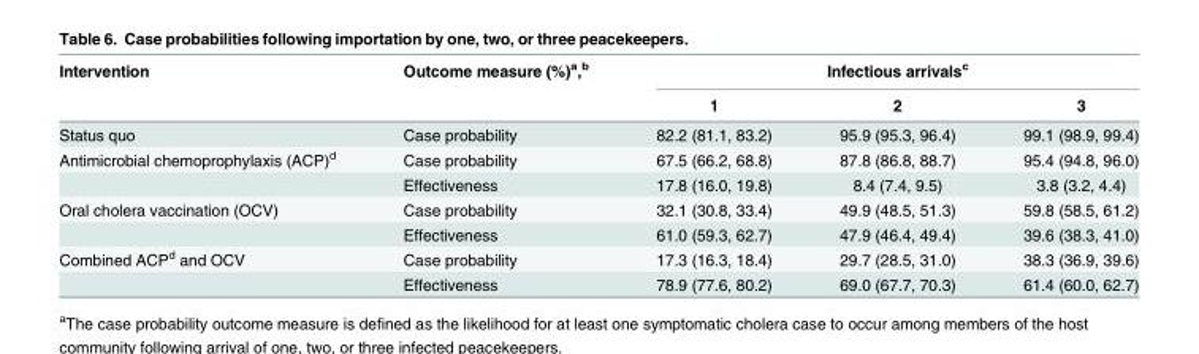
<table><thead><tr><td rowspan="2">Intervention</td><td rowspan="2">Outcome measure (%)<sup>a</sup>,<sup>b</sup></td><td colspan="3">Infectious arrivals<sup>c</sup></td></tr><tr><td>1</td><td>2</td><td>3</td></tr></thead><tbody><tr><td>Status quo</td><td>Case probability</td><td>82.2 (81.1, 83.2)</td><td>95.9 (95.3, 96.4)</td><td>99.1 (98.9, 99.4)</td></tr><tr><td rowspan="2">Antimicrobial chemoprophylaxis (ACP)<sup>d</sup></td><td>Case probability</td><td>67.5 (66.2, 68.8)</td><td>87.8 (86.8, 88.7)</td><td>95.4 (94.8, 96.0)</td></tr><tr><td>Effectiveness</td><td>17.8 (16.0, 19.8)</td><td>8.4 (7.4, 9.5)</td><td>3.8 (3.2, 4.4)</td></tr><tr><td rowspan="2">Oral cholera vaccination (OCV)</td><td>Case probability</td><td>32.1 (30.8, 33.4)</td><td>49.9 (48.5, 51.3)</td><td>59.8 (58.5, 61.2)</td></tr><tr><td>Effectiveness</td><td>61.0 (59.3, 62.7)</td><td>47.9 (46.4, 49.4)</td><td>39.6 (38.3, 41.0)</td></tr><tr><td rowspan="2">Combined ACP<sup>d</sup> and OCV</td><td>Case probability</td><td>17.3 (16.3, 18.4)</td><td>29.7 (28.5, 31.0)</td><td>38.3 (36.9, 39.6)</td></tr><tr><td>Effectiveness</td><td>78.9 (77.6, 80.2)</td><td>69.0 (67.7, 70.3)</td><td>61.4 (60.0, 62.7)</td></tr></tbody></table>